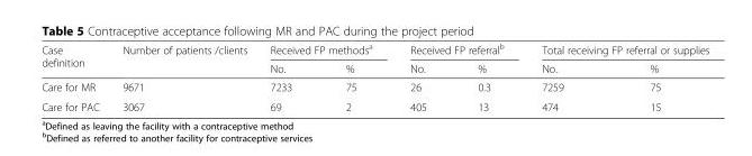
<table><thead><tr><td rowspan="2">Case definition</td><td rowspan="2">Number of patients /clients</td><td colspan="2">Received FP methods<sup>a</sup></td><td colspan="2">Received FP referral<sup>b</sup></td><td colspan="2">Total receiving FP referral or supplies</td></tr><tr><td>No.</td><td>%</td><td>No.</td><td>%</td><td>No.</td><td>%</td></tr></thead><tbody><tr><td>Care for MR</td><td>9671</td><td>7233</td><td>75</td><td>26</td><td>0.3</td><td>7259</td><td>75</td></tr><tr><td>Care for PAC</td><td>3067</td><td>69</td><td>2</td><td>405</td><td>13</td><td>474</td><td>15</td></tr></tbody></table>